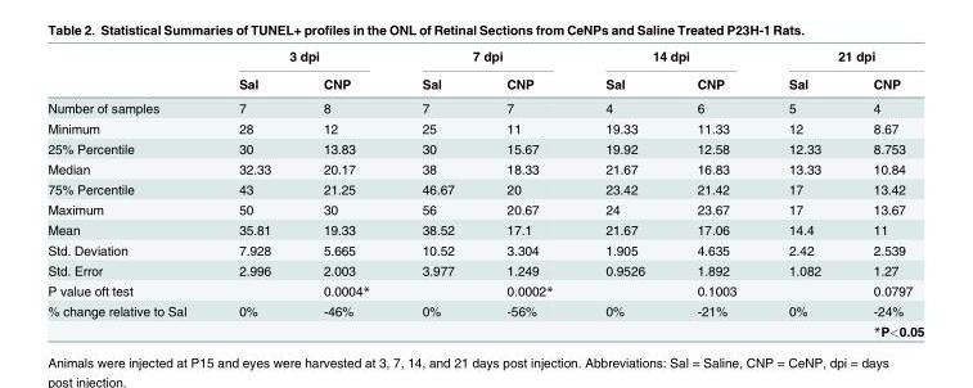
<table><thead><tr><td rowspan="2"></td><td colspan="2">3 dpi</td><td colspan="2">7 dpi</td><td colspan="2">14 dpi</td><td colspan="2">21 dpi</td></tr><tr><td>Sal</td><td>CNP</td><td>Sal</td><td>CNP</td><td>Sal</td><td>CNP</td><td>Sal</td><td>CNP</td></tr></thead><tbody><tr><td>Number of samples</td><td>7</td><td>8</td><td>7</td><td>7</td><td>4</td><td>6</td><td>5</td><td>4</td></tr><tr><td>Minimum</td><td>28</td><td>12</td><td>25</td><td>11</td><td>19.33</td><td>11.33</td><td>12</td><td>8.67</td></tr><tr><td>25% Percentile</td><td>30</td><td>13.83</td><td>30</td><td>15.67</td><td>19.92</td><td>12.58</td><td>12.33</td><td>8.753</td></tr><tr><td>Median</td><td>32.33</td><td>20.17</td><td>38</td><td>18.33</td><td>21.67</td><td>16.83</td><td>13.33</td><td>10.84</td></tr><tr><td>75% Percentile</td><td>43</td><td>21.25</td><td>46.67</td><td>20</td><td>23.42</td><td>21.42</td><td>17</td><td>13.42</td></tr><tr><td>Maximum</td><td>50</td><td>30</td><td>56</td><td>20.67</td><td>24</td><td>23.67</td><td>17</td><td>13.67</td></tr><tr><td>Mean</td><td>35.81</td><td>19.33</td><td>38.52</td><td>17.1</td><td>21.67</td><td>17.06</td><td>14.4</td><td>11</td></tr><tr><td>Std. Deviation</td><td>7.928</td><td>5.665</td><td>10.52</td><td>3.304</td><td>1.905</td><td>4.635</td><td>2.42</td><td>2.539</td></tr><tr><td>Std. Error</td><td>2.996</td><td>2.003</td><td>3.977</td><td>1.249</td><td>0.9526</td><td>1.892</td><td>1.082</td><td>1.27</td></tr><tr><td>P value oft test</td><td></td><td>0.0004*</td><td></td><td>0.0002*</td><td></td><td>0.1003</td><td></td><td>0.0797</td></tr><tr><td rowspan="2">% change relative to Sal</td><td>0%</td><td>-46%</td><td>0%</td><td>-56%</td><td>0%</td><td>-21%</td><td>0%</td><td>-24%</td></tr><tr><td></td><td></td><td></td><td></td><td></td><td></td><td></td><td>*P&lt;0.05</td></tr></tbody></table>